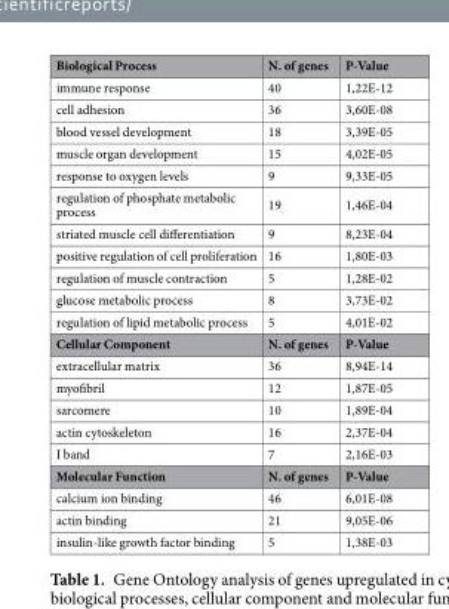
<table><thead><tr><td>Biological Process</td><td>N. of genes</td><td>P-Value</td></tr></thead><tbody><tr><td>immune response</td><td>40</td><td>1,22E-12</td></tr><tr><td>cell adhesion</td><td>36</td><td>3,60E-08</td></tr><tr><td>blood vessel development</td><td>18</td><td>3,39E-05</td></tr><tr><td>muscle organ development</td><td>15</td><td>4,02E-05</td></tr><tr><td>response to oxygen levels</td><td>9</td><td>9,33E-05</td></tr><tr><td>regulation of phosphate metabolic process</td><td>19</td><td>1,46E-04</td></tr><tr><td>striated muscle cell differentiation</td><td>9</td><td>8,23E-04</td></tr><tr><td>positive regulation of cell proliferation</td><td>16</td><td>1,80E-03</td></tr><tr><td>regulation of muscle contraction</td><td>5</td><td>1,28E-02</td></tr><tr><td>glucose metabolic process</td><td>8</td><td>3,73E-02</td></tr><tr><td>regulation of lipid metabolic process</td><td>5</td><td>4,01E-02</td></tr><tr><td>Cellular Component</td><td>N. of genes</td><td>P-Value</td></tr><tr><td>extracellular matrix</td><td>36</td><td>8,94E-14</td></tr><tr><td>myofibril</td><td>12</td><td>1,87E-05</td></tr><tr><td>sarcomere</td><td>10</td><td>1,89E-04</td></tr><tr><td>actin cytoskeleton</td><td>16</td><td>2,37E-04</td></tr><tr><td>I band</td><td>7</td><td>2,16E-03</td></tr><tr><td>Molecular Function</td><td>N. of genes</td><td>P-Value</td></tr><tr><td>calcium ion binding</td><td>46</td><td>6,01E-08</td></tr><tr><td>actin binding</td><td>21</td><td>9,05E-06</td></tr><tr><td>insulin-like growth factor binding</td><td>5</td><td>1,38E-03</td></tr></tbody></table>